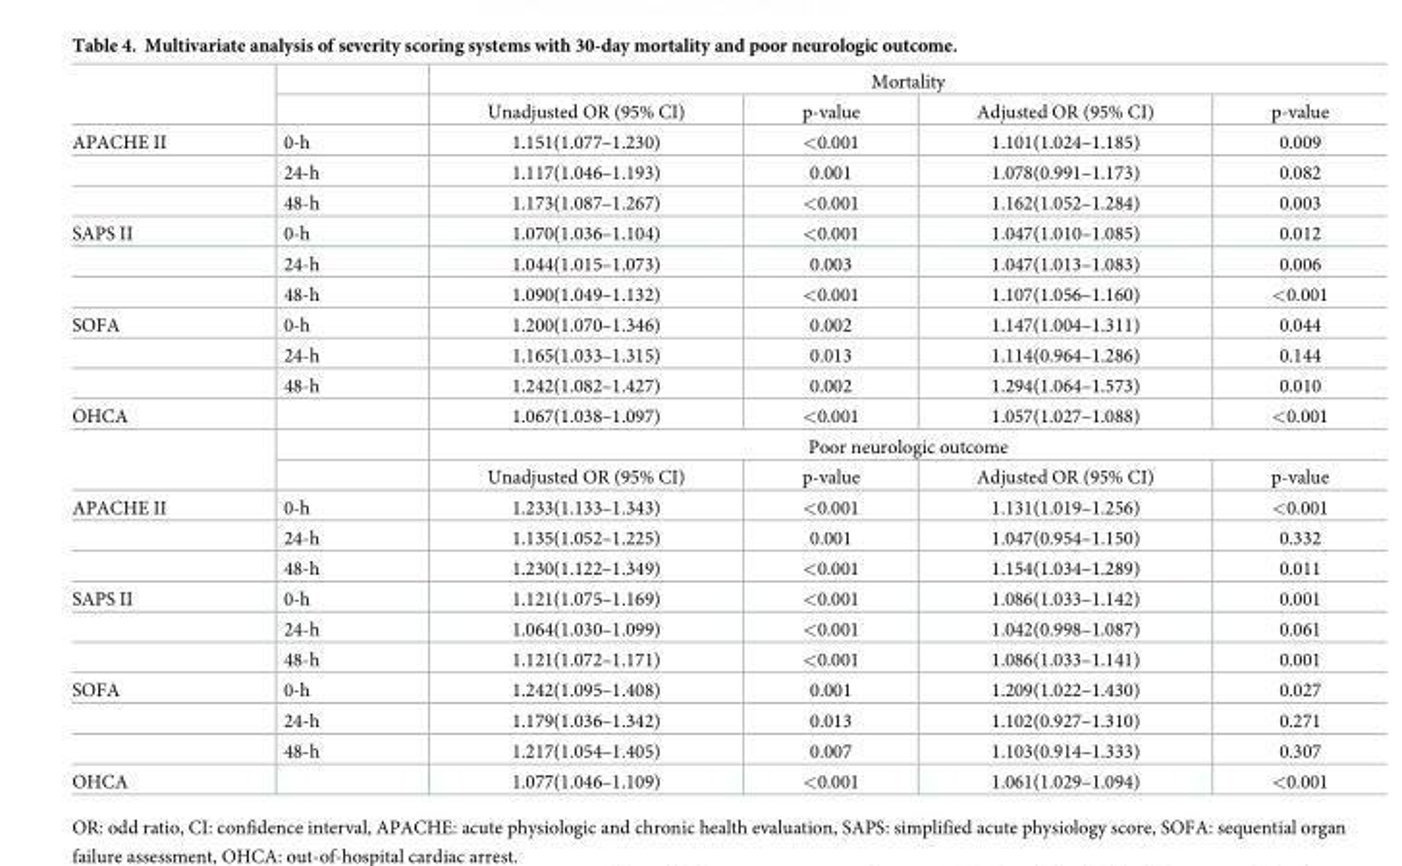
<table><thead><tr><td rowspan="2"></td><td rowspan="2"></td><td colspan="4">Mortality</td></tr><tr><td>Unadjusted OR (95% CI)</td><td>p-value</td><td>Adjusted OR (95% CI)</td><td>p-value</td></tr></thead><tbody><tr><td rowspan="3">APACHE II</td><td>0-h</td><td>1.151(1.077–1.230)</td><td>&lt;0.001</td><td>1.101(1.024–1.185)</td><td>0.009</td></tr><tr><td>24-h</td><td>1.117(1.046–1.193)</td><td>0.001</td><td>1.078(0.991–1.173)</td><td>0.082</td></tr><tr><td>48-h</td><td>1.173(1.087–1.267)</td><td>&lt;0.001</td><td>1.162(1.052–1.284)</td><td>0.003</td></tr><tr><td rowspan="3">SAPS II</td><td>0-h</td><td>1.070(1.036–1.104)</td><td>&lt;0.001</td><td>1.047(1.010–1.085)</td><td>0.012</td></tr><tr><td>24-h</td><td>1.044(1.015–1.073)</td><td>0.003</td><td>1.047(1.013–1.083)</td><td>0.006</td></tr><tr><td>48-h</td><td>1.090(1.049–1.132)</td><td>&lt;0.001</td><td>1.107(1.056–1.160)</td><td>&lt;0.001</td></tr><tr><td rowspan="3">SOFA</td><td>0-h</td><td>1.200(1.070–1.346)</td><td>0.002</td><td>1.147(1.004–1.311)</td><td>0.044</td></tr><tr><td>24-h</td><td>1.165(1.033–1.315)</td><td>0.013</td><td>1.114(0.964–1.286)</td><td>0.144</td></tr><tr><td>48-h</td><td>1.242(1.082–1.427)</td><td>0.002</td><td>1.294(1.064–1.573)</td><td>0.010</td></tr><tr><td rowspan="3">OHCA</td><td></td><td>1.067(1.038–1.097)</td><td>&lt;0.001</td><td>1.057(1.027–1.088)</td><td>&lt;0.001</td></tr><tr><td></td><td colspan="4">Poor neurologic outcome</td></tr><tr><td></td><td>Unadjusted OR (95% CI)</td><td>p-value</td><td>Adjusted OR (95% CI)</td><td>p-value</td></tr><tr><td rowspan="3">APACHE II</td><td>0-h</td><td>1.233(1.133–1.343)</td><td>&lt;0.001</td><td>1.131(1.019–1.256)</td><td>&lt;0.001</td></tr><tr><td>24-h</td><td>1.135(1.052–1.225)</td><td>0.001</td><td>1.047(0.954–1.150)</td><td>0.332</td></tr><tr><td>48-h</td><td>1.230(1.122–1.349)</td><td>&lt;0.001</td><td>1.154(1.034–1.289)</td><td>0.011</td></tr><tr><td rowspan="3">SAPS II</td><td>0-h</td><td>1.121(1.075–1.169)</td><td>&lt;0.001</td><td>1.086(1.033–1.142)</td><td>0.001</td></tr><tr><td>24-h</td><td>1.064(1.030–1.099)</td><td>&lt;0.001</td><td>1.042(0.998–1.087)</td><td>0.061</td></tr><tr><td>48-h</td><td>1.121(1.072–1.171)</td><td>&lt;0.001</td><td>1.086(1.033–1.141)</td><td>0.001</td></tr><tr><td rowspan="3">SOFA</td><td>0-h</td><td>1.242(1.095–1.408)</td><td>0.001</td><td>1.209(1.022–1.430)</td><td>0.027</td></tr><tr><td>24-h</td><td>1.179(1.036–1.342)</td><td>0.013</td><td>1.102(0.927–1.310)</td><td>0.271</td></tr><tr><td>48-h</td><td>1.217(1.054–1.405)</td><td>0.007</td><td>1.103(0.914–1.333)</td><td>0.307</td></tr><tr><td>OHCA</td><td></td><td>1.077(1.046–1.109)</td><td>&lt;0.001</td><td>1.061(1.029–1.094)</td><td>&lt;0.001</td></tr></tbody></table>